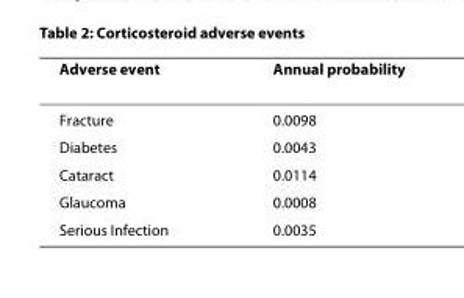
<table><thead><tr><td>Adverse event</td><td>Annual probability</td></tr></thead><tbody><tr><td>Fracture</td><td>0.0098</td></tr><tr><td>Diabetes</td><td>0.0043</td></tr><tr><td>Cataract</td><td>0.0114</td></tr><tr><td>Glaucoma</td><td>0.0008</td></tr><tr><td>Serious Infection</td><td>0.0035</td></tr></tbody></table>